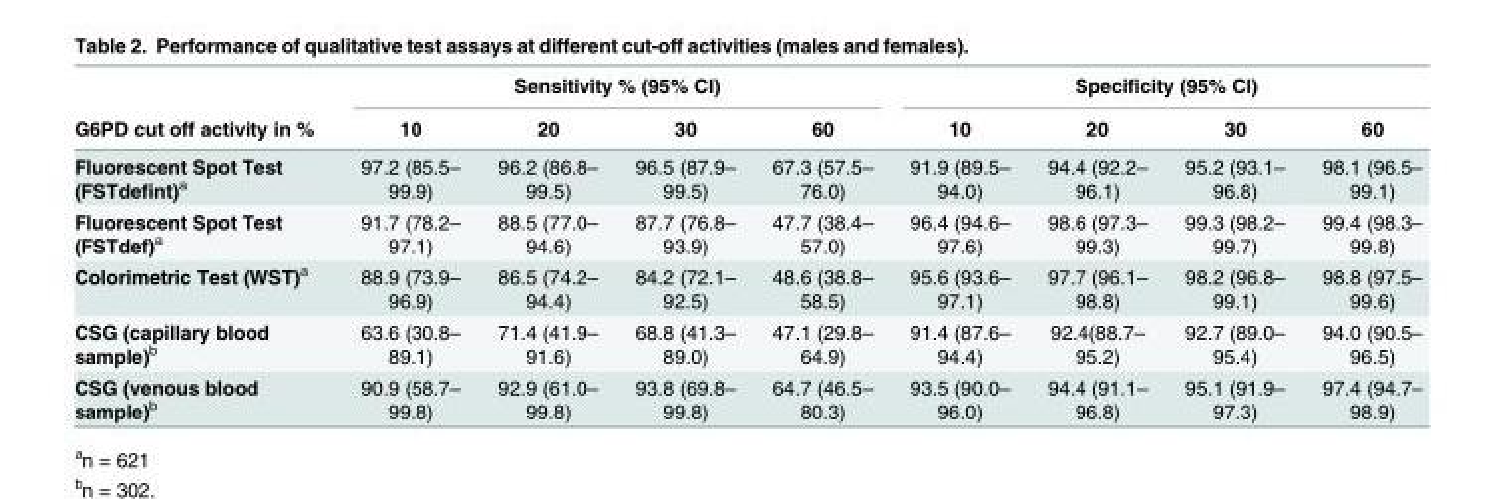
<table><thead><tr><td rowspan="2">G6PD cut off activity in %</td><td colspan="4">Sensitivity % (95% CI)</td><td colspan="4">Specificity (95% CI)</td></tr><tr><td>10</td><td>20</td><td>30</td><td>60</td><td>10</td><td>20</td><td>30</td><td>60</td></tr></thead><tbody><tr><td>Fluorescent Spot Test (FSTdefint)<sup>a</sup></td><td>97.2 (85.5– 99.9)</td><td>96.2 (86.8– 99.5)</td><td>96.5 (87.9– 99.5)</td><td>67.3 (57.5– 76.0)</td><td>91.9 (89.5– 94.0)</td><td>94.4 (92.2– 96.1)</td><td>95.2 (93.1– 96.8)</td><td>98.1 (96.5– 99.1)</td></tr><tr><td>Fluorescent Spot Test (FSTdef)<sup>a</sup></td><td>91.7 (78.2– 97.1)</td><td>88.5 (77.0– 94.6)</td><td>87.7 (76.8– 93.9)</td><td>47.7 (38.4– 57.0)</td><td>96.4 (94.6– 97.6)</td><td>98.6 (97.3– 99.3)</td><td>99.3 (98.2– 99.7)</td><td>99.4 (98.3– 99.8)</td></tr><tr><td>Colorimetric Test (WST)<sup>a</sup></td><td>88.9 (73.9– 96.9)</td><td>86.5 (74.2– 94.4)</td><td>84.2 (72.1– 92.5)</td><td>48.6 (38.8– 58.5)</td><td>95.6 (93.6– 97.1)</td><td>97.7 (96.1– 98.8)</td><td>98.2 (96.8– 99.1)</td><td>98.8 (97.5– 99.6)</td></tr><tr><td>CSG (capillary blood sample)<sup>b</sup></td><td>63.6 (30.8– 89.1)</td><td>71.4 (41.9– 91.6)</td><td>68.8 (41.3– 89.0)</td><td>47.1 (29.8– 64.9)</td><td>91.4 (87.6– 94.4)</td><td>92.4(88.7– 95.2)</td><td>92.7 (89.0– 95.4)</td><td>94.0 (90.5– 96.5)</td></tr><tr><td>CSG (venous blood sample)<sup>b</sup></td><td>90.9 (58.7– 99.8)</td><td>92.9 (61.0– 99.8)</td><td>93.8 (69.8– 99.8)</td><td>64.7 (46.5– 80.3)</td><td>93.5 (90.0– 96.0)</td><td>94.4 (91.1– 96.8)</td><td>95.1 (91.9– 97.3)</td><td>97.4 (94.7– 98.9)</td></tr></tbody></table>